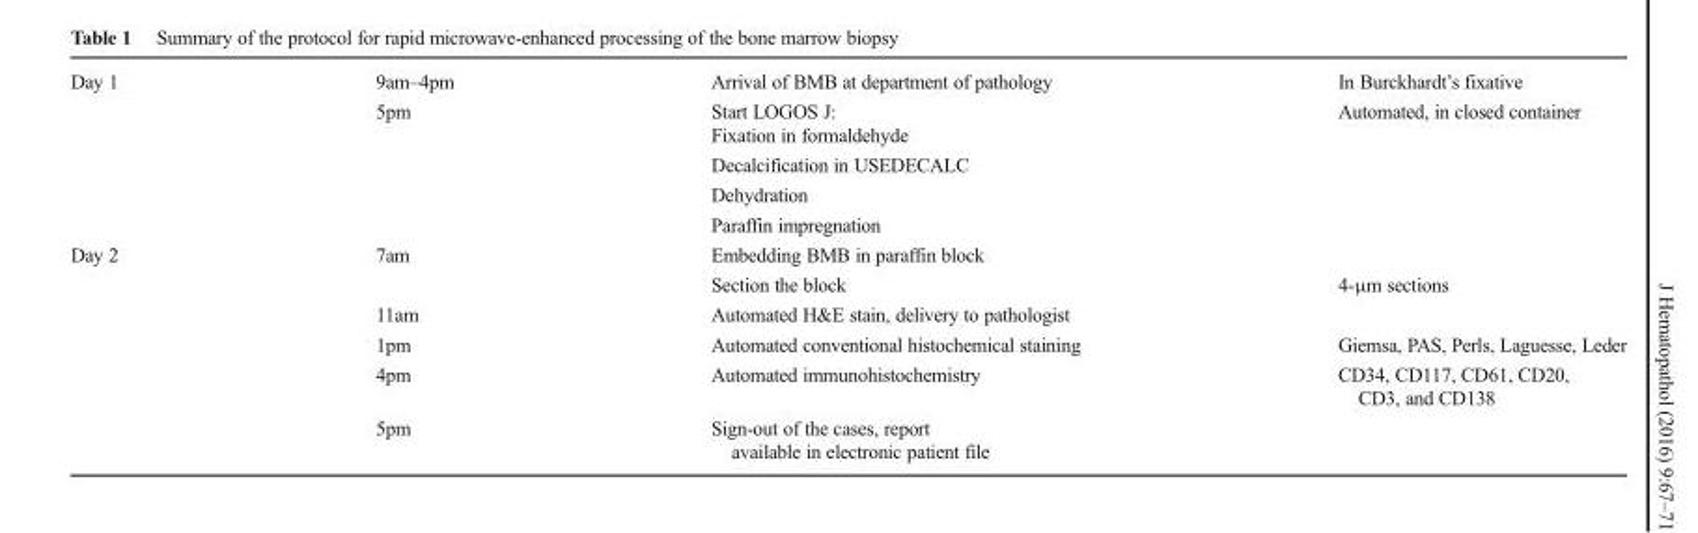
<table><tbody><tr><td rowspan="6">Day 1</td><td>9am–4pm</td><td>Arrival of BMB at department of pathology</td><td>In Burckhardt’s fixative</td></tr><tr><td rowspan="5">5pm</td><td>Start LOGOS J:</td><td rowspan="5">Automated, in closed container</td></tr><tr><td>Fixation in formaldehyde</td></tr><tr><td>Decalcification in USEDECALC</td></tr><tr><td>Dehydration</td></tr><tr><td>Paraffin impregnation</td></tr><tr><td rowspan="6">Day 2</td><td rowspan="2">7am</td><td>Embedding BMB in paraffin block</td><td></td></tr><tr><td>Section the block</td><td>4-μm sections</td></tr><tr><td>11am</td><td>Automated H&amp;E stain, delivery to pathologist</td><td></td></tr><tr><td>1pm</td><td>Automated conventional histochemical staining</td><td>Giemsa, PAS, Perls, Laguesse, Leder</td></tr><tr><td>4pm</td><td>Automated immunohistochemistry</td><td>CD34, CD117, CD61, CD20, CD3, and CD138</td></tr><tr><td>5pm</td><td>Sign-out of the cases, report available in electronic patient file</td><td></td></tr></tbody></table>